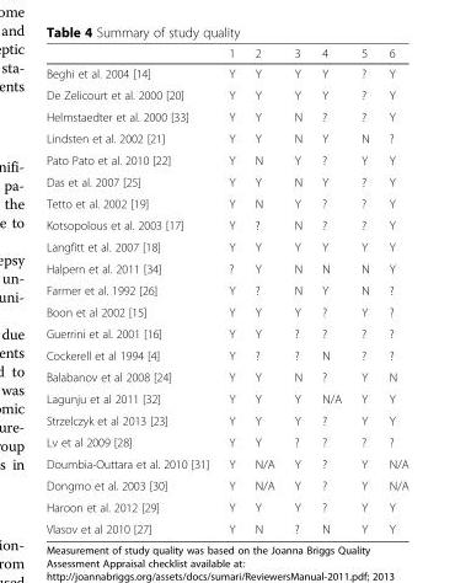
<table><thead><tr><td></td><td>1</td><td>2</td><td>3</td><td>4</td><td>5</td><td>6</td></tr></thead><tbody><tr><td>Beghi et al. 2004 [14]</td><td>Y</td><td>Y</td><td>Y</td><td>Y</td><td>?</td><td>Y</td></tr><tr><td>De Zelicourt et al. 2000 [20]</td><td>Y</td><td>Y</td><td>Y</td><td>Y</td><td>?</td><td>Y</td></tr><tr><td>Helmstaedter et al. 2000 [33]</td><td>Y</td><td>Y</td><td>N</td><td>?</td><td>?</td><td>Y</td></tr><tr><td>Lindsten et al. 2002 [21]</td><td>Y</td><td>Y</td><td>N</td><td>Y</td><td>N</td><td>?</td></tr><tr><td>Pato Pato et al. 2010 [22]</td><td>Y</td><td>N</td><td>Y</td><td>?</td><td>Y</td><td>Y</td></tr><tr><td>Das et al. 2007 [25]</td><td>Y</td><td>Y</td><td>N</td><td>Y</td><td>?</td><td>Y</td></tr><tr><td>Tetto et al. 2002 [19]</td><td>Y</td><td>N</td><td>Y</td><td>?</td><td>?</td><td>Y</td></tr><tr><td>Kotsopolous et al. 2003 [17]</td><td>Y</td><td>?</td><td>N</td><td>?</td><td>?</td><td>Y</td></tr><tr><td>Langfitt et al. 2007 [18]</td><td>Y</td><td>Y</td><td>Y</td><td>Y</td><td>Y</td><td>Y</td></tr><tr><td>Halpern et al. 2011 [34]</td><td>?</td><td>Y</td><td>N</td><td>N</td><td>N</td><td>Y</td></tr><tr><td>Farmer et al. 1992 [26]</td><td>Y</td><td>?</td><td>N</td><td>Y</td><td>N</td><td>?</td></tr><tr><td>Boon et al 2002 [15]</td><td>Y</td><td>Y</td><td>Y</td><td>?</td><td>Y</td><td>?</td></tr><tr><td>Guerrini et al. 2001 [16]</td><td>Y</td><td>Y</td><td>?</td><td>?</td><td>?</td><td>?</td></tr><tr><td>Cockerell et al 1994 [4]</td><td>Y</td><td>?</td><td>?</td><td>N</td><td>?</td><td>?</td></tr><tr><td>Balabanov et al 2008 [24]</td><td>Y</td><td>Y</td><td>N</td><td>?</td><td>Y</td><td>N</td></tr><tr><td>Lagunju et al 2011 [32]</td><td>Y</td><td>Y</td><td>Y</td><td>N/A</td><td>Y</td><td>Y</td></tr><tr><td>Strzelczyk et al 2013 [23]</td><td>Y</td><td>Y</td><td>Y</td><td>?</td><td>Y</td><td>Y</td></tr><tr><td>Lv et al 2009 [28]</td><td>Y</td><td>Y</td><td>?</td><td>?</td><td>?</td><td>?</td></tr><tr><td>Doumbia-Outtara et al. 2010 [31]</td><td>Y</td><td>N/A</td><td>Y</td><td>?</td><td>Y</td><td>N/A</td></tr><tr><td>Dongmo et al. 2003 [30]</td><td>Y</td><td>N/A</td><td>Y</td><td>?</td><td>Y</td><td>N/A</td></tr><tr><td>Haroon et al. 2012 [29]</td><td>Y</td><td>Y</td><td>Y</td><td>?</td><td>Y</td><td>Y</td></tr><tr><td>Vlasov et al 2010 [27]</td><td>Y</td><td>N</td><td>?</td><td>N</td><td>Y</td><td>Y</td></tr></tbody></table>